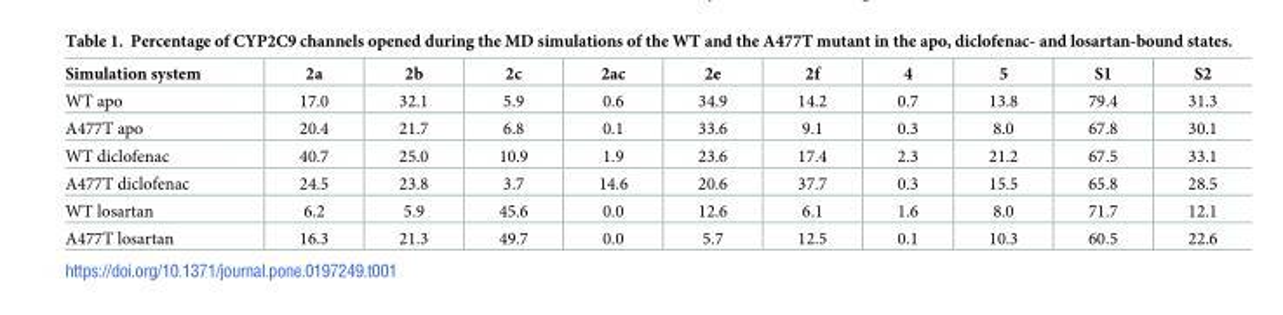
<table><thead><tr><td>Simulation system</td><td>2a</td><td>2b</td><td>2c</td><td>2ac</td><td>2e</td><td>2f</td><td>4</td><td>5</td><td>S1</td><td>S2</td></tr></thead><tbody><tr><td>WT apo</td><td>17.0</td><td>32.1</td><td>5.9</td><td>0.6</td><td>34.9</td><td>14.2</td><td>0.7</td><td>13.8</td><td>79.4</td><td>31.3</td></tr><tr><td>A477T apo</td><td>20.4</td><td>21.7</td><td>6.8</td><td>0.1</td><td>33.6</td><td>9.1</td><td>0.3</td><td>8.0</td><td>67.8</td><td>30.1</td></tr><tr><td>WT diclofenac</td><td>40.7</td><td>25.0</td><td>10.9</td><td>1.9</td><td>23.6</td><td>17.4</td><td>2.3</td><td>21.2</td><td>67.5</td><td>33.1</td></tr><tr><td>A477T diclofenac</td><td>24.5</td><td>23.8</td><td>3.7</td><td>14.6</td><td>20.6</td><td>37.7</td><td>0.3</td><td>15.5</td><td>65.8</td><td>28.5</td></tr><tr><td>WT losartan</td><td>6.2</td><td>5.9</td><td>45.6</td><td>0.0</td><td>12.6</td><td>6.1</td><td>1.6</td><td>8.0</td><td>71.7</td><td>12.1</td></tr><tr><td>A477T losartan</td><td>16.3</td><td>21.3</td><td>49.7</td><td>0.0</td><td>5.7</td><td>12.5</td><td>0.1</td><td>10.3</td><td>60.5</td><td>22.6</td></tr></tbody></table>